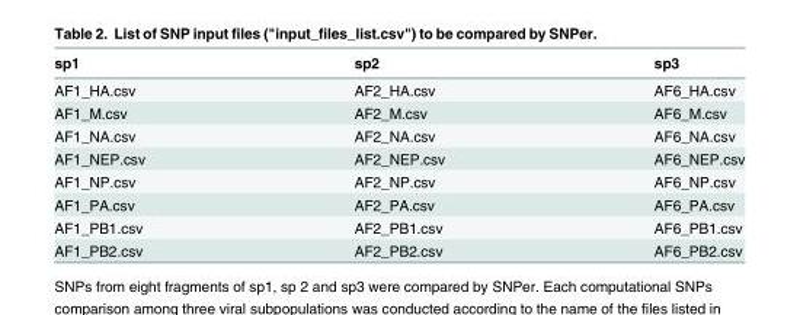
<table><thead><tr><td>sp1</td><td>sp2</td><td>sp3</td></tr></thead><tbody><tr><td>AF1_HA.csv</td><td>AF2_HA.csv</td><td>AF6_HA.csv</td></tr><tr><td>AF1_M.csv</td><td>AF2_M.csv</td><td>AF6_M.csv</td></tr><tr><td>AF1_NA.csv</td><td>AF2_NA.csv</td><td>AF6_NA.csv</td></tr><tr><td>AF1_NEP.csv</td><td>AF2_NEP.csv</td><td>AF6_NEP.csv</td></tr><tr><td>AF1_NP.csv</td><td>AF2_NP.csv</td><td>AF6_NP.csv</td></tr><tr><td>AF1_PA.csv</td><td>AF2_PA.csv</td><td>AF6_PA.csv</td></tr><tr><td>AF1_PB1.csv</td><td>AF2_PB1.csv</td><td>AF6_PB1.csv</td></tr><tr><td>AF1_PB2.csv</td><td>AF2_PB2.csv</td><td>AF6_PB2.csv</td></tr></tbody></table>